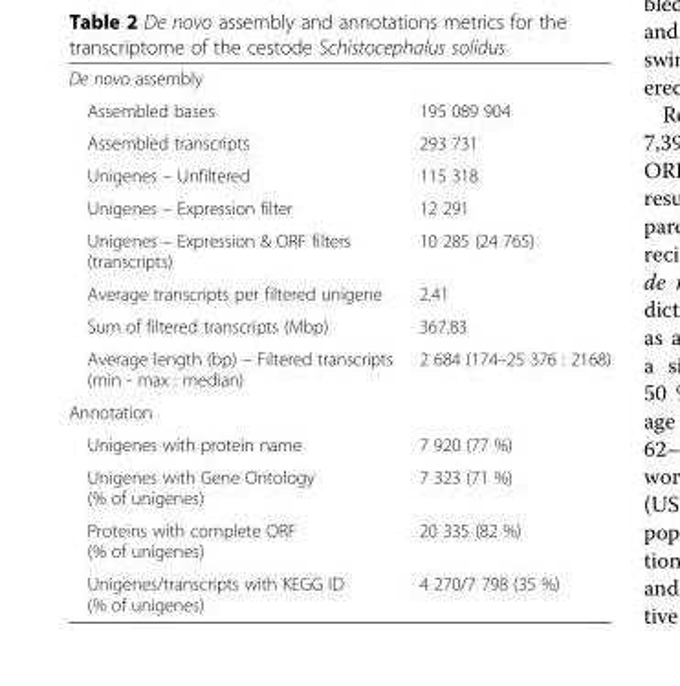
<table><tbody><tr><td colspan="2">De novo assembly</td></tr><tr><td>Assembled bases</td><td>195 089 904</td></tr><tr><td>Assembled transcripts</td><td>293 731</td></tr><tr><td>Unigenes – Unfiltered</td><td>115 318</td></tr><tr><td>Unigenes – Expression filter</td><td>12 291</td></tr><tr><td>Unigenes – Expression &amp; ORF filters (transcripts)</td><td>10 285 (24 765)</td></tr><tr><td>Average transcripts per filtered unigene</td><td>2.41</td></tr><tr><td>Sum of filtered transcripts (Mbp)</td><td>367.83</td></tr><tr><td>Average length (bp) – Filtered transcripts (min - max : median)</td><td>2 684 (174–25 376 : 2168)</td></tr><tr><td colspan="2">Annotation</td></tr><tr><td>Unigenes with protein name</td><td>7 920 (77 %)</td></tr><tr><td>Unigenes with Gene Ontology (% of unigenes)</td><td>7 323 (71 %)</td></tr><tr><td>Proteins with complete ORF (% of unigenes)</td><td>20 335 (82 %)</td></tr><tr><td>Unigenes/transcripts with KEGG ID (% of unigenes)</td><td>4 270/7 798 (35 %)</td></tr></tbody></table>